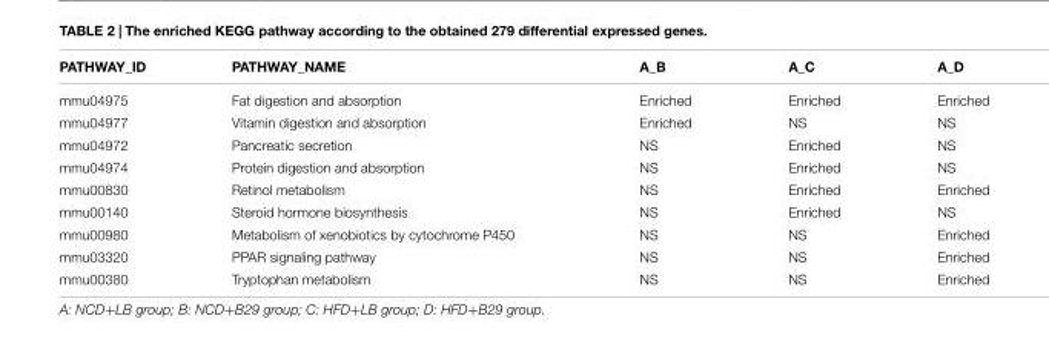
<table><thead><tr><td>PATHWAY_ID</td><td>PATHWAY_NAME</td><td>A_B</td><td>A_C</td><td>A_D</td></tr></thead><tbody><tr><td>mmu04975</td><td>Fat digestion and absorption</td><td>Enriched</td><td>Enriched</td><td>Enriched</td></tr><tr><td>mmu04977</td><td>Vitamin digestion and absorption</td><td>Enriched</td><td>NS</td><td>NS</td></tr><tr><td>mmu04972</td><td>Pancreatic secretion</td><td>NS</td><td>Enriched</td><td>NS</td></tr><tr><td>mmu04974</td><td>Protein digestion and absorption</td><td>NS</td><td>Enriched</td><td>NS</td></tr><tr><td>mmu00830</td><td>Retinol metabolism</td><td>NS</td><td>Enriched</td><td>Enriched</td></tr><tr><td>mmu00140</td><td>Steroid hormone biosynthesis</td><td>NS</td><td>Enriched</td><td>NS</td></tr><tr><td>mmu00980</td><td>Metabolism of xenobiotics by cytochrome P450</td><td>NS</td><td>NS</td><td>Enriched</td></tr><tr><td>mmu03320</td><td>PPAR signaling pathway</td><td>NS</td><td>NS</td><td>Enriched</td></tr><tr><td>mmu00380</td><td>Tryptophan metabolism</td><td>NS</td><td>NS</td><td>Enriched</td></tr></tbody></table>